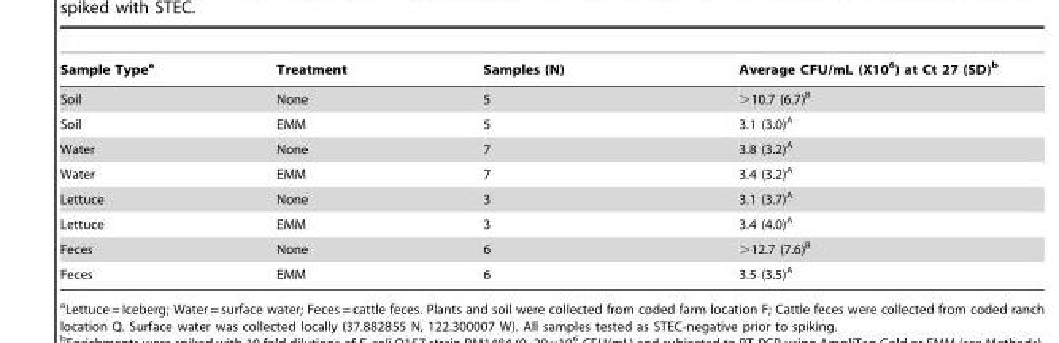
<table><thead><tr><td>Sample Type<sup>a</sup></td><td>Treatment</td><td>Samples (N)</td><td>Average CFU/mL (X10<sup>6</sup>) at Ct 27 (SD)<sup>b</sup></td></tr></thead><tbody><tr><td>Soil</td><td>None</td><td>5</td><td>&gt;10.7 (6.7)<sup>B</sup></td></tr><tr><td>Soil</td><td>EMM</td><td>5</td><td>3.1 (3.0)<sup>A</sup></td></tr><tr><td>Water</td><td>None</td><td>7</td><td>3.8 (3.2)<sup>A</sup></td></tr><tr><td>Water</td><td>EMM</td><td>7</td><td>3.4 (3.2)<sup>A</sup></td></tr><tr><td>Lettuce</td><td>None</td><td>3</td><td>3.1 (3.7)<sup>A</sup></td></tr><tr><td>Lettuce</td><td>EMM</td><td>3</td><td>3.4 (4.0)<sup>A</sup></td></tr><tr><td>Feces</td><td>None</td><td>6</td><td>&gt;12.7 (7.6)<sup>B</sup></td></tr><tr><td>Feces</td><td>EMM</td><td>6</td><td>3.5 (3.5)<sup>A</sup></td></tr></tbody></table>